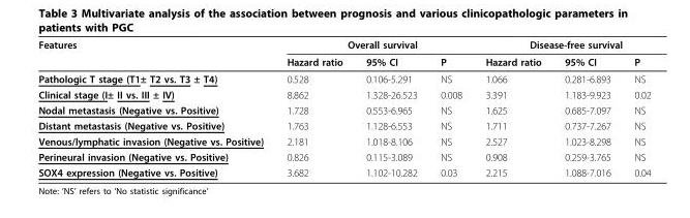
<table><thead><tr><td rowspan="2">Features</td><td colspan="3">Overall survival</td><td colspan="3">Disease-free survival</td></tr><tr><td>Hazard ratio</td><td>95% CI</td><td>P</td><td>Hazard ratio</td><td>95% CI</td><td>P</td></tr></thead><tbody><tr><td>Pathologic T stage (T1± T2 vs. T3 ± T4)</td><td>0.528</td><td>0.106-5.291</td><td>NS</td><td>1.066</td><td>0.281-6.893</td><td>NS</td></tr><tr><td>Clinical stage (I± II vs. III ± IV)</td><td>8.862</td><td>1.328-26.523</td><td>0.008</td><td>3.391</td><td>1.183-9.923</td><td>0.02</td></tr><tr><td>Nodal metastasis (Negative vs. Positive)</td><td>1.728</td><td>0.553-6.965</td><td>NS</td><td>1.625</td><td>0.685-7.097</td><td>NS</td></tr><tr><td>Distant metastasis (Negative vs. Positive)</td><td>1.763</td><td>1.128-6.553</td><td>NS</td><td>1.711</td><td>0.737-7.267</td><td>NS</td></tr><tr><td>Venous/lymphatic invasion (Negative vs. Positive)</td><td>2.181</td><td>1.018-8.106</td><td>NS</td><td>2.527</td><td>1.023-8.298</td><td>NS</td></tr><tr><td>Perineural invasion (Negative vs. Positive)</td><td>0.826</td><td>0.115-3.089</td><td>NS</td><td>0.908</td><td>0.259-3.765</td><td>NS</td></tr><tr><td>SOX4 expression (Negative vs. Positive)</td><td>3.682</td><td>1.102-10.282</td><td>0.03</td><td>2.215</td><td>1.088-7.016</td><td>0.04</td></tr></tbody></table>